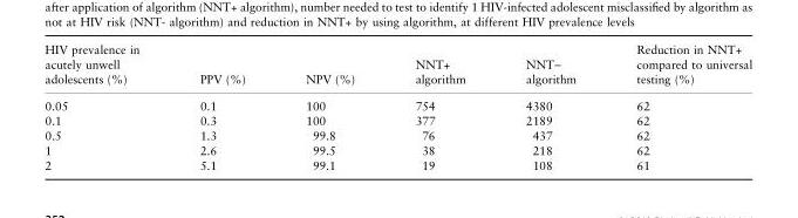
<table><thead><tr><td>HIV prevalence in acutely unwell adolescents (%)</td><td>PPV (%)</td><td>NPV (%)</td><td>NNT+ algorithm</td><td>NNT− algorithm</td><td>Reduction in NNT+ compared to universal testing (%)</td></tr></thead><tbody><tr><td>0.05</td><td>0.1</td><td>100</td><td>754</td><td>4380</td><td>62</td></tr><tr><td>0.1</td><td>0.3</td><td>100</td><td>377</td><td>2189</td><td>62</td></tr><tr><td>0.5</td><td>1.3</td><td>99.8</td><td>76</td><td>437</td><td>62</td></tr><tr><td>1</td><td>2.6</td><td>99.5</td><td>38</td><td>218</td><td>62</td></tr><tr><td>2</td><td>5.1</td><td>99.1</td><td>19</td><td>108</td><td>61</td></tr></tbody></table>